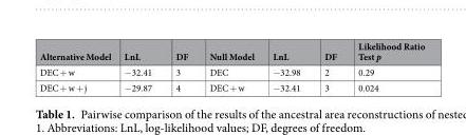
<table><thead><tr><td>Alternative Model</td><td>LnL</td><td>DF</td><td>Null Model</td><td>LnL</td><td>DF</td><td>Likelihood Ratio Test p</td></tr></thead><tbody><tr><td>DEC + w</td><td>−32.41</td><td>3</td><td>DEC</td><td>−32.98</td><td>2</td><td>0.29</td></tr><tr><td>DEC + w + j</td><td>−29.87</td><td>4</td><td>DEC + w</td><td>−32.41</td><td>3</td><td>0.024</td></tr></tbody></table>